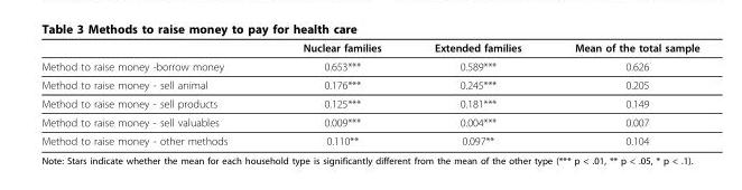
<table><thead><tr><td></td><td>Nuclear families</td><td>Extended families</td><td>Mean of the total sample</td></tr></thead><tbody><tr><td>Method to raise money -borrow money</td><td>0.653***</td><td>0.589***</td><td>0.626</td></tr><tr><td>Method to raise money - sell animal</td><td>0.176***</td><td>0.245***</td><td>0.205</td></tr><tr><td>Method to raise money - sell products</td><td>0.125***</td><td>0.181***</td><td>0.149</td></tr><tr><td>Method to raise money - sell valuables</td><td>0.009***</td><td>0.004***</td><td>0.007</td></tr><tr><td>Method to raise money - other methods</td><td>0.110**</td><td>0.097**</td><td>0.104</td></tr></tbody></table>